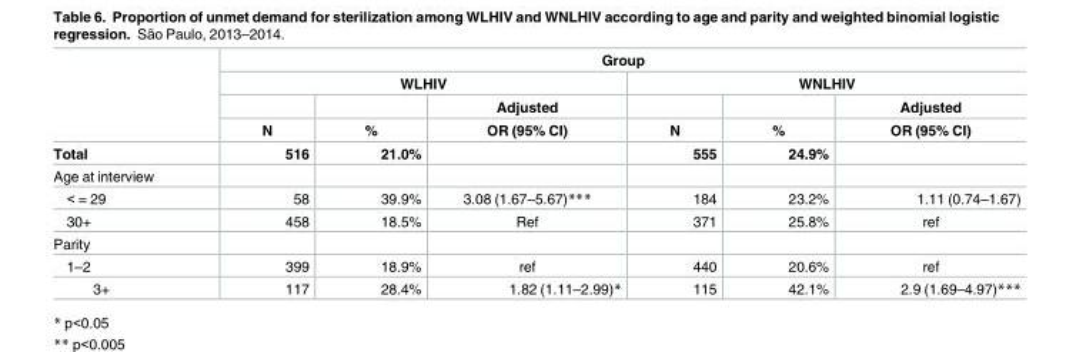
<table><thead><tr><td rowspan="4"></td><td colspan="6">Group</td></tr><tr><td colspan="3">WLHIV</td><td colspan="3">WNLHIV</td></tr><tr><td rowspan="2">N</td><td rowspan="2">%</td><td rowspan="2">Adjusted OR (95% CI)</td><td rowspan="2">N</td><td rowspan="2">%</td><td rowspan="2">Adjusted OR (95% CI)</td></tr><tr></tr></thead><tbody><tr><td>Total</td><td>516</td><td>21.0%</td><td></td><td>555</td><td>24.9%</td><td></td></tr><tr><td colspan="7">Age at interview</td></tr><tr><td>&lt; = 29</td><td>58</td><td>39.9%</td><td>3.08 (1.67–5.67)***</td><td>184</td><td>23.2%</td><td>1.11 (0.74–1.67)</td></tr><tr><td>30+</td><td>458</td><td>18.5%</td><td>Ref</td><td>371</td><td>25.8%</td><td>ref</td></tr><tr><td colspan="7">Parity</td></tr><tr><td>1–2</td><td>399</td><td>18.9%</td><td>ref</td><td>440</td><td>20.6%</td><td>ref</td></tr><tr><td>3+</td><td>117</td><td>28.4%</td><td>1.82 (1.11–2.99)*</td><td>115</td><td>42.1%</td><td>2.9 (1.69–4.97)***</td></tr></tbody></table>